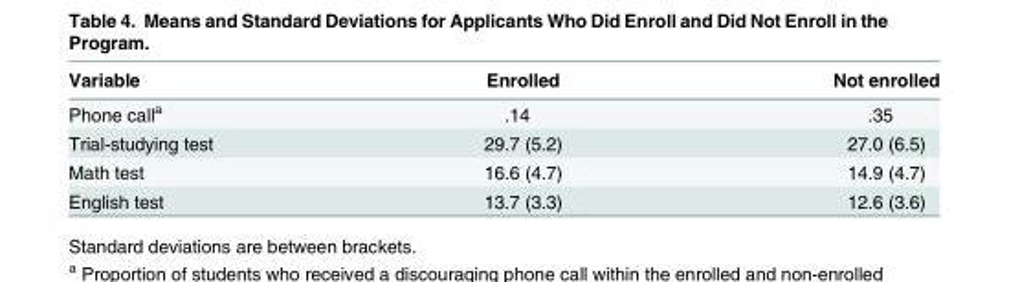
<table><thead><tr><td>Variable</td><td>Enrolled</td><td>Not enrolled</td></tr></thead><tbody><tr><td>Phone call<sup>a</sup></td><td>.14</td><td>.35</td></tr><tr><td>Trial-studying test</td><td>29.7 (5.2)</td><td>27.0 (6.5)</td></tr><tr><td>Math test</td><td>16.6 (4.7)</td><td>14.9 (4.7)</td></tr><tr><td>English test</td><td>13.7 (3.3)</td><td>12.6 (3.6)</td></tr></tbody></table>